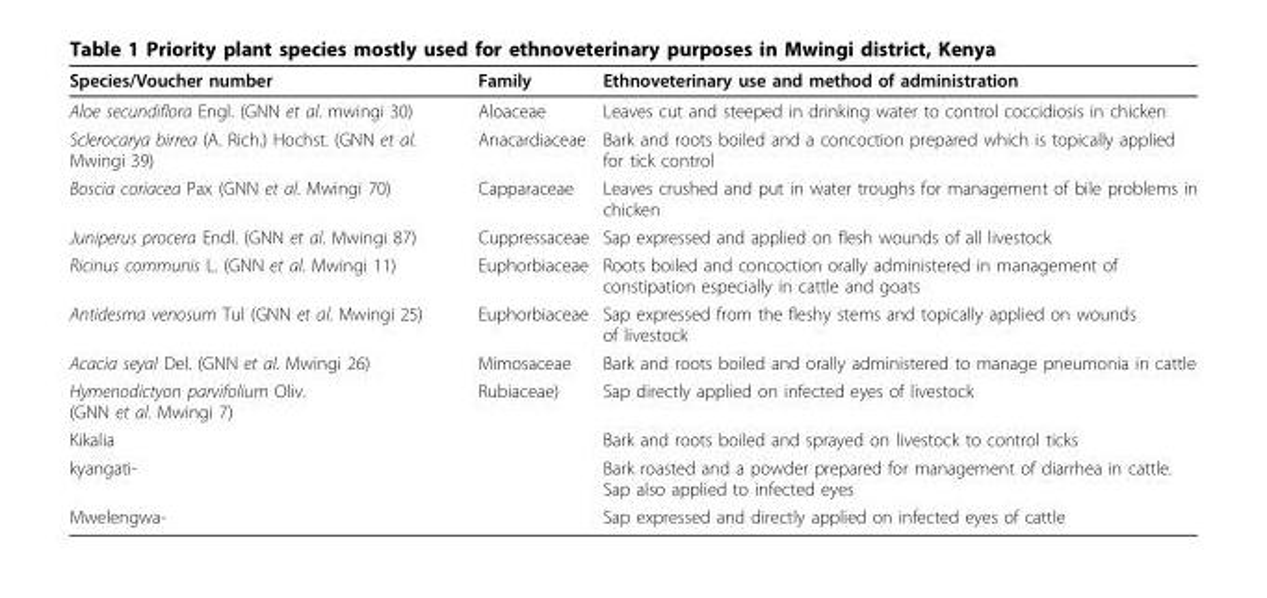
<table><thead><tr><td>Species/Voucher number</td><td>Family</td><td>Ethnoveterinary use and method of administration</td></tr></thead><tbody><tr><td>Aloe secundiflora Engl. (GNN et al. mwingi 30)</td><td>Aloaceae</td><td>Leaves cut and steeped in drinking water to control coccidiosis in chicken</td></tr><tr><td>Sclerocarya birrea (A. Rich.) Hochst. (GNN et al. Mwingi 39)</td><td>Anacardiaceae</td><td>Bark and roots boiled and a concoction prepared which is topically applied for tick control</td></tr><tr><td>Boscia coriacea Pax (GNN et al. Mwingi 70)</td><td>Capparaceae</td><td>Leaves crushed and put in water troughs for management of bile problems in chicken</td></tr><tr><td>Juniperus procera Endl. (GNN et al. Mwingi 87)</td><td>Cuppressaceae</td><td>Sap expressed and applied on flesh wounds of all livestock</td></tr><tr><td>Ricinus communis L. (GNN et al. Mwingi 11)</td><td>Euphorbiaceae</td><td>Roots boiled and concoction orally administered in management of constipation especially in cattle and goats</td></tr><tr><td>Antidesma venosum Tul (GNN et al. Mwingi 25)</td><td>Euphorbiaceae</td><td>Sap expressed from the fleshy stems and topically applied on wounds of livestock</td></tr><tr><td>Acacia seyal Del. (GNN et al. Mwingi 26)</td><td>Mimosaceae</td><td>Bark and roots boiled and orally administered to manage pneumonia in cattle</td></tr><tr><td>Hymenodictyon parvifolium Oliv. (GNN et al. Mwingi 7)</td><td>Rubiaceae)</td><td>Sap directly applied on infected eyes of livestock</td></tr><tr><td>Kikalia</td><td></td><td>Bark and roots boiled and sprayed on livestock to control ticks</td></tr><tr><td>kyangati-</td><td></td><td>Bark roasted and a powder prepared for management of diarrhea in cattle. Sap also applied to infected eyes</td></tr><tr><td>Mwelengwa-</td><td></td><td>Sap expressed and directly applied on infected eyes of cattle</td></tr></tbody></table>